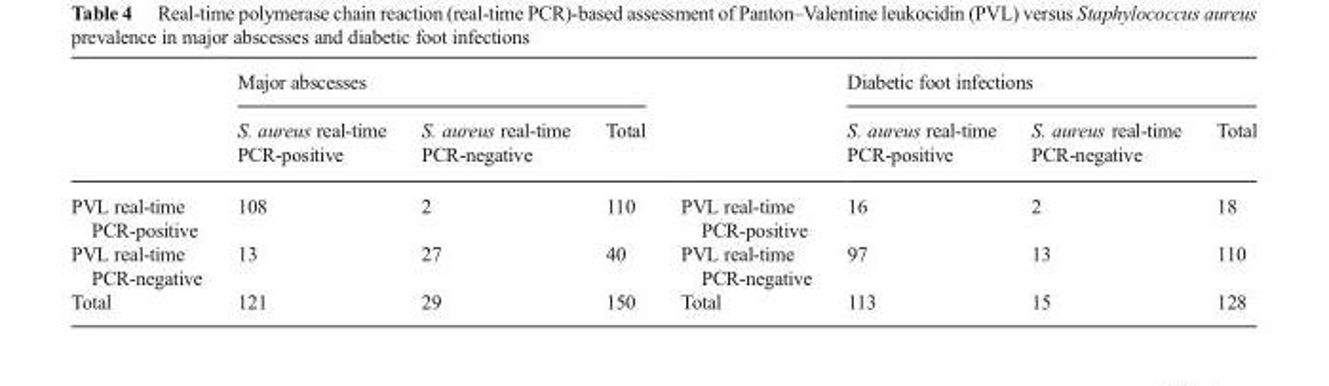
<table><thead><tr><td rowspan="2"></td><td colspan="3">Major abscesses</td><td rowspan="2"></td><td colspan="3">Diabetic foot infections</td></tr><tr><td>S. aureus real-time PCR-positive</td><td>S. aureus real-time PCR-negative</td><td>Total</td><td>S. aureus real-time PCR-positive</td><td>S. aureus real-time PCR-negative</td><td>Total</td></tr></thead><tbody><tr><td>PVL real-time PCR-positive</td><td>108</td><td>2</td><td>110</td><td>PVL real-time PCR-positive</td><td>16</td><td>2</td><td>18</td></tr><tr><td>PVL real-time PCR-negative</td><td>13</td><td>27</td><td>40</td><td>PVL real-time PCR-negative</td><td>97</td><td>13</td><td>110</td></tr><tr><td>Total</td><td>121</td><td>29</td><td>150</td><td>Total</td><td>113</td><td>15</td><td>128</td></tr></tbody></table>